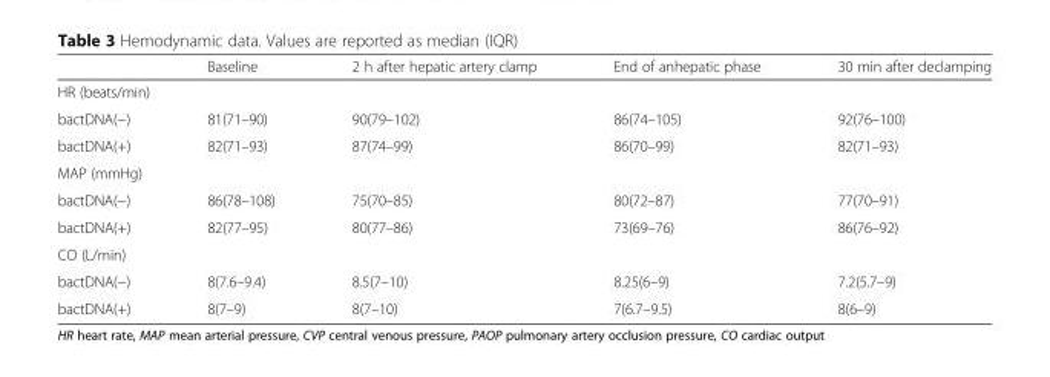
<table><thead><tr><td></td><td>Baseline</td><td>2 h after hepatic artery clamp</td><td>End of anhepatic phase</td><td>30 min after declamping</td></tr></thead><tbody><tr><td colspan="5">HR (beats/min)</td></tr><tr><td>bactDNA(−)</td><td>81(71–90)</td><td>90(79–102)</td><td>86(74–105)</td><td>92(76–100)</td></tr><tr><td>bactDNA(+)</td><td>82(71–93)</td><td>87(74–99)</td><td>86(70–99)</td><td>82(71–93)</td></tr><tr><td colspan="5">MAP (mmHg)</td></tr><tr><td>bactDNA(−)</td><td>86(78–108)</td><td>75(70–85)</td><td>80(72–87)</td><td>77(70–91)</td></tr><tr><td>bactDNA(+)</td><td>82(77–95)</td><td>80(77–86)</td><td>73(69–76)</td><td>86(76–92)</td></tr><tr><td colspan="5">CO (L/min)</td></tr><tr><td>bactDNA(−)</td><td>8(7.6–9.4)</td><td>8.5(7–10)</td><td>8.25(6–9)</td><td>7.2(5.7–9)</td></tr><tr><td>bactDNA(+)</td><td>8(7–9)</td><td>8(7–10)</td><td>7(6.7–9.5)</td><td>8(6–9)</td></tr></tbody></table>